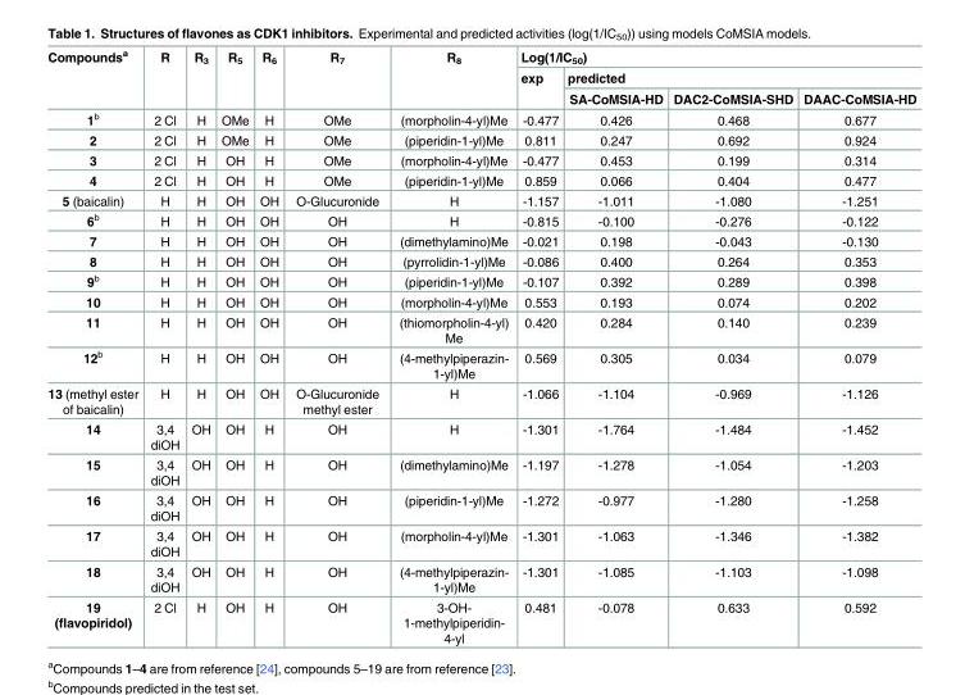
<table><thead><tr><td rowspan="3">Compounds<sup>a</sup></td><td rowspan="3">R</td><td rowspan="3">R<sub>3</sub></td><td rowspan="3">R<sub>5</sub></td><td rowspan="3">R<sub>6</sub></td><td rowspan="3">R<sub>7</sub></td><td rowspan="3">R<sub>8</sub></td><td colspan="4">Log(1/IC<sub>50</sub>)</td></tr><tr><td rowspan="2">exp</td><td colspan="3">predicted</td></tr><tr><td>SA-CoMSIA-HD</td><td>DAC2-CoMSIA-SHD</td><td>DAAC-CoMSIA-HD</td></tr></thead><tbody><tr><td>1<sup>b</sup></td><td>2 Cl</td><td>H</td><td>OMe</td><td>H</td><td>OMe</td><td>(morpholin-4-yl)Me</td><td>-0.477</td><td>0.426</td><td>0.468</td><td>0.677</td></tr><tr><td>2</td><td>2 Cl</td><td>H</td><td>OMe</td><td>H</td><td>OMe</td><td>(piperidin-1-yl)Me</td><td>0.811</td><td>0.247</td><td>0.692</td><td>0.924</td></tr><tr><td>3</td><td>2 Cl</td><td>H</td><td>OH</td><td>H</td><td>OMe</td><td>(morpholin-4-yl)Me</td><td>-0.477</td><td>0.453</td><td>0.199</td><td>0.314</td></tr><tr><td>4</td><td>2 Cl</td><td>H</td><td>OH</td><td>H</td><td>OMe</td><td>(piperidin-1-yl)Me</td><td>0.859</td><td>0.066</td><td>0.404</td><td>0.477</td></tr><tr><td>5 (baicalin)</td><td>H</td><td>H</td><td>OH</td><td>OH</td><td>O-Glucuronide</td><td>H</td><td>-1.157</td><td>-1.011</td><td>-1.080</td><td>-1.251</td></tr><tr><td>6<sup>b</sup></td><td>H</td><td>H</td><td>OH</td><td>OH</td><td>OH</td><td>H</td><td>-0.815</td><td>-0.100</td><td>-0.276</td><td>-0.122</td></tr><tr><td>7</td><td>H</td><td>H</td><td>OH</td><td>OH</td><td>OH</td><td>(dimethylamino)Me</td><td>-0.021</td><td>0.198</td><td>-0.043</td><td>-0.130</td></tr><tr><td>8</td><td>H</td><td>H</td><td>OH</td><td>OH</td><td>OH</td><td>(pyrrolidin-1-yl)Me</td><td>-0.086</td><td>0.400</td><td>0.264</td><td>0.353</td></tr><tr><td>9<sup>b</sup></td><td>H</td><td>H</td><td>OH</td><td>OH</td><td>OH</td><td>(piperidin-1-yl)Me</td><td>-0.107</td><td>0.392</td><td>0.289</td><td>0.398</td></tr><tr><td>10</td><td>H</td><td>H</td><td>OH</td><td>OH</td><td>OH</td><td>(morpholin-4-yl)Me</td><td>0.553</td><td>0.193</td><td>0.074</td><td>0.202</td></tr><tr><td>11</td><td>H</td><td>H</td><td>OH</td><td>OH</td><td>OH</td><td>(thiomorpholin-4-yl) Me</td><td>0.420</td><td>0.284</td><td>0.140</td><td>0.239</td></tr><tr><td>12<sup>b</sup></td><td>H</td><td>H</td><td>OH</td><td>OH</td><td>OH</td><td>(4-methylpiperazin- 1-yl)Me</td><td>0.569</td><td>0.305</td><td>0.034</td><td>0.079</td></tr><tr><td>13 (methyl ester of baicalin)</td><td>H</td><td>H</td><td>OH</td><td>OH</td><td>O-Glucuronide methyl ester</td><td>H</td><td>-1.066</td><td>-1.104</td><td>-0.969</td><td>-1.126</td></tr><tr><td>14</td><td>3,4 diOH</td><td>OH</td><td>OH</td><td>H</td><td>OH</td><td>H</td><td>-1.301</td><td>-1.764</td><td>-1.484</td><td>-1.452</td></tr><tr><td>15</td><td>3,4 diOH</td><td>OH</td><td>OH</td><td>H</td><td>OH</td><td>(dimethylamino)Me</td><td>-1.197</td><td>-1.278</td><td>-1.054</td><td>-1.203</td></tr><tr><td>16</td><td>3,4 diOH</td><td>OH</td><td>OH</td><td>H</td><td>OH</td><td>(piperidin-1-yl)Me</td><td>-1.272</td><td>-0.977</td><td>-1.280</td><td>-1.258</td></tr><tr><td>17</td><td>3,4 diOH</td><td>OH</td><td>OH</td><td>H</td><td>OH</td><td>(morpholin-4-yl)Me</td><td>-1.301</td><td>-1.063</td><td>-1.346</td><td>-1.382</td></tr><tr><td>18</td><td>3,4 diOH</td><td>OH</td><td>OH</td><td>H</td><td>OH</td><td>(4-methylpiperazin- 1-yl)Me</td><td>-1.301</td><td>-1.085</td><td>-1.103</td><td>-1.098</td></tr><tr><td>19 (flavopiridol)</td><td>2 Cl</td><td>H</td><td>OH</td><td>H</td><td>OH</td><td>3-OH- 1-methylpiperidin- 4-yl</td><td>0.481</td><td>-0.078</td><td>0.633</td><td>0.592</td></tr></tbody></table>